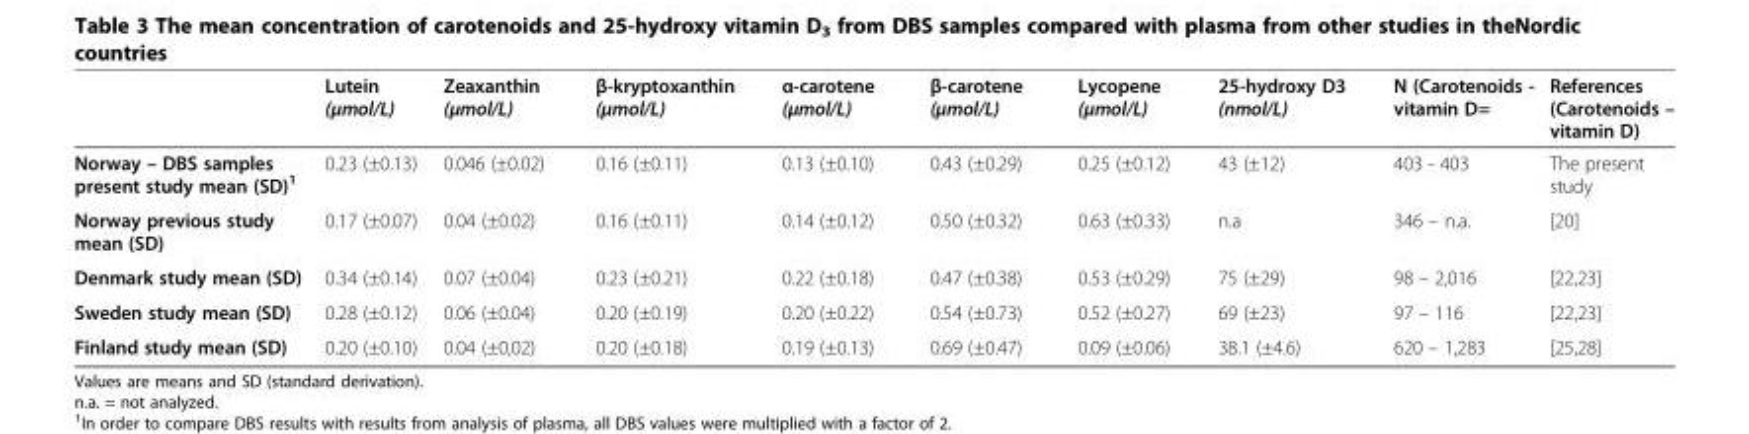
<table><thead><tr><td></td><td>Lutein (μmol/L)</td><td>Zeaxanthin (μmol/L)</td><td>β-kryptoxanthin (μmol/L)</td><td>α-carotene (μmol/L)</td><td>β-carotene (μmol/L)</td><td>Lycopene (μmol/L)</td><td>25-hydroxy D3 (nmol/L)</td><td>N (Carotenoids - vitamin D=</td><td>References (Carotenoids – vitamin D)</td></tr></thead><tbody><tr><td>Norway – DBS samples present study mean (SD)<sup>1</sup></td><td>0.23 (±0.13)</td><td>0.046 (±0.02)</td><td>0.16 (±0.11)</td><td>0.13 (±0.10)</td><td>0.43 (±0.29)</td><td>0.25 (±0.12)</td><td>43 (±12)</td><td>403 - 403</td><td>The present study</td></tr><tr><td>Norway previous study mean (SD)</td><td>0.17 (±0.07)</td><td>0.04 (±0.02)</td><td>0.16 (±0.11)</td><td>0.14 (±0.12)</td><td>0.50 (±0.32)</td><td>0.63 (±0.33)</td><td>n.a</td><td>346 – n.a.</td><td>[20]</td></tr><tr><td>Denmark study mean (SD)</td><td>0.34 (±0.14)</td><td>0.07 (±0.04)</td><td>0.23 (±0.21)</td><td>0.22 (±0.18)</td><td>0.47 (±0.38)</td><td>0.53 (±0.29)</td><td>75 (±29)</td><td>98 – 2,016</td><td>[22,23]</td></tr><tr><td>Sweden study mean (SD)</td><td>0.28 (±0.12)</td><td>0.06 (±0.04)</td><td>0.20 (±0.19)</td><td>0.20 (±0.22)</td><td>0.54 (±0.73)</td><td>0.52 (±0.27)</td><td>69 (±23)</td><td>97 – 116</td><td>[22,23]</td></tr><tr><td>Finland study mean (SD)</td><td>0.20 (±0.10)</td><td>0.04 (±0,02)</td><td>0.20 (±0.18)</td><td>0.19 (±0.13)</td><td>0.69 (±0.47)</td><td>0.09 (±0.06)</td><td>38.1 (±4.6)</td><td>620 – 1,283</td><td>[25,28]</td></tr></tbody></table>